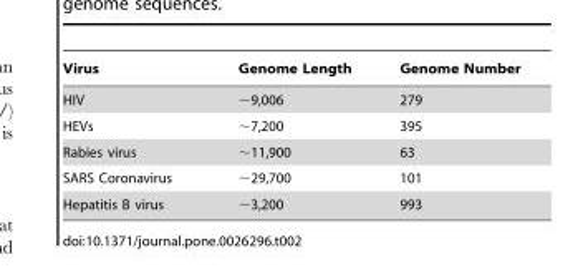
<table><thead><tr><td>Virus</td><td>Genome Length</td><td>Genome Number</td></tr></thead><tbody><tr><td>HIV</td><td>∼9,006</td><td>279</td></tr><tr><td>HEVs</td><td>∼7,200</td><td>395</td></tr><tr><td>Rabies virus</td><td>∼11,900</td><td>63</td></tr><tr><td>SARS Coronavirus</td><td>∼29,700</td><td>101</td></tr><tr><td>Hepatitis B virus</td><td>∼3,200</td><td>993</td></tr></tbody></table>